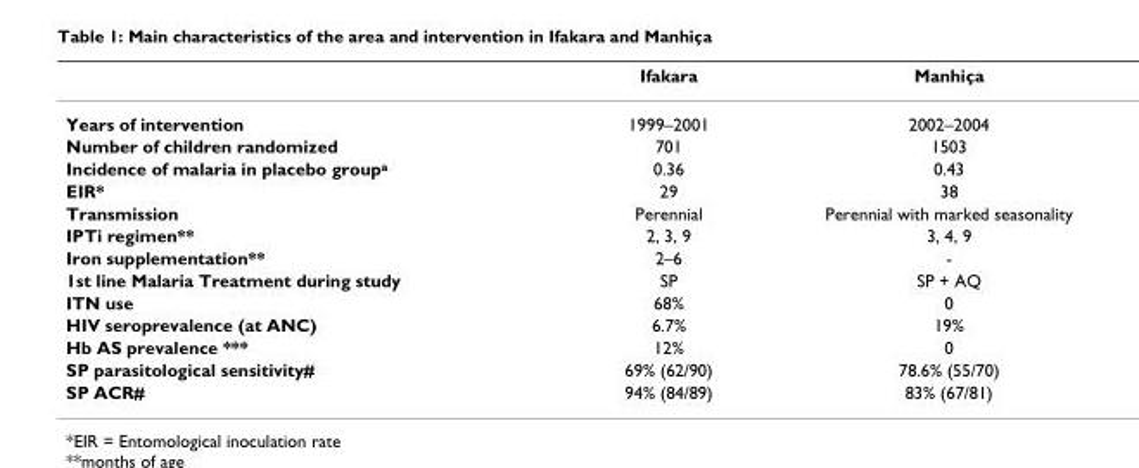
<table><thead><tr><td></td><td>Ifakara</td><td>Manhiça</td></tr></thead><tbody><tr><td>Years of intervention</td><td>1999–2001</td><td>2002–2004</td></tr><tr><td>Number of children randomized</td><td>701</td><td>1503</td></tr><tr><td>Incidence of malaria in placebo group<sup>a</sup></td><td>0.36</td><td>0.43</td></tr><tr><td>EIR*</td><td>29</td><td>38</td></tr><tr><td>Transmission</td><td>Perennial</td><td>Perennial with marked seasonality</td></tr><tr><td>IPTi regimen**</td><td>2, 3, 9</td><td>3, 4, 9</td></tr><tr><td>Iron supplementation**</td><td>2–6</td><td>-</td></tr><tr><td>1st line Malaria Treatment during study</td><td>SP</td><td>SP + AQ</td></tr><tr><td>ITN use</td><td>68%</td><td>0</td></tr><tr><td>HIV seroprevalence (at ANC)</td><td>6.7%</td><td>19%</td></tr><tr><td>Hb AS prevalence ***</td><td>12%</td><td>0</td></tr><tr><td>SP parasitological sensitivity#</td><td>69% (62/90)</td><td>78.6% (55/70)</td></tr><tr><td>SP ACR#</td><td>94% (84/89)</td><td>83% (67/81)</td></tr></tbody></table>